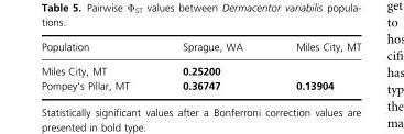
<table><thead><tr><td>Population</td><td>Sprague, WA</td><td>Miles City, MT</td></tr></thead><tbody><tr><td>Miles City, MT</td><td>0.25200</td><td></td></tr><tr><td>Pompey’s Pillar, MT</td><td>0.36747</td><td>0.13904</td></tr></tbody></table>